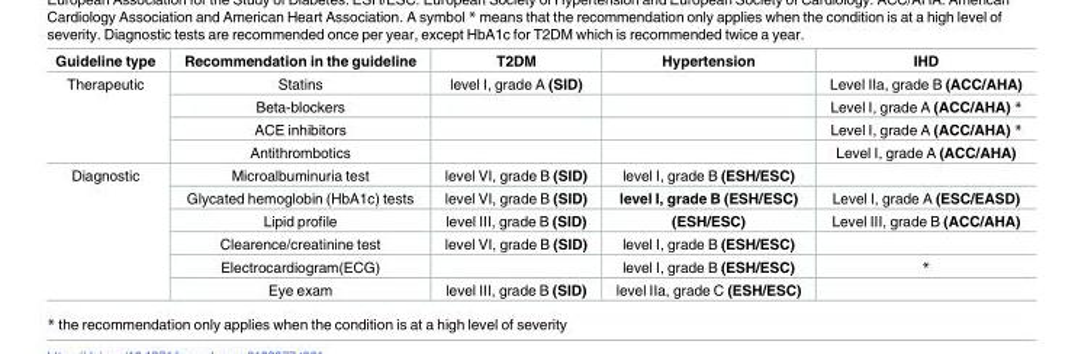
<table><thead><tr><td>Guideline type</td><td>Recommendation in the guideline</td><td>T2DM</td><td>Hypertension</td><td>IHD</td></tr></thead><tbody><tr><td rowspan="4">Therapeutic</td><td>Statins</td><td>level I, grade A (SID)</td><td></td><td>Level IIa, grade B (ACC/AHA)</td></tr><tr><td>Beta-blockers</td><td></td><td></td><td>Level I, grade A (ACC/AHA) *</td></tr><tr><td>ACE inhibitors</td><td></td><td></td><td>Level I, grade A (ACC/AHA) *</td></tr><tr><td>Antithrombotics</td><td></td><td></td><td>Level I, grade A (ACC/AHA)</td></tr><tr><td rowspan="6">Diagnostic</td><td>Microalbuminuria test</td><td>level VI, grade B (SID)</td><td>level I, grade B (ESH/ESC)</td><td></td></tr><tr><td>Glycated hemoglobin (HbA1c) tests</td><td>level VI, grade B (SID)</td><td>level I, grade B (ESH/ESC)</td><td>Level I, grade A (ESC/EASD)</td></tr><tr><td>Lipid profile</td><td>level III, grade B (SID)</td><td>(ESH/ESC)</td><td>Level III, grade B (ACC/AHA)</td></tr><tr><td>Clearence/creatinine test</td><td>level VI, grade B (SID)</td><td>level I, grade B (ESH/ESC)</td><td></td></tr><tr><td>Electrocardiogram(ECG)</td><td></td><td>level I, grade B (ESH/ESC)</td><td>*</td></tr><tr><td>Eye exam</td><td>level III, grade B (SID)</td><td>level IIa, grade C (ESH/ESC)</td><td></td></tr></tbody></table>